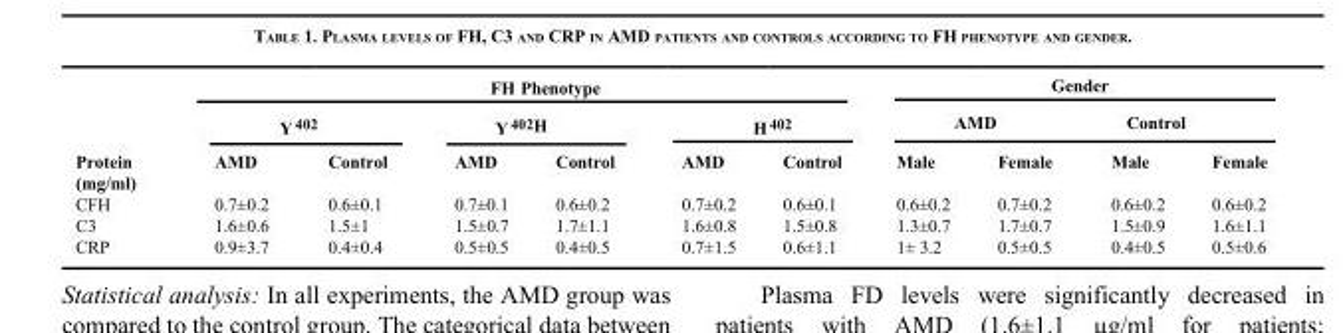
<table><thead><tr><td rowspan="3">Protein (mg/ml)</td><td colspan="6">FH Phenotype</td><td colspan="4">Gender</td></tr><tr><td colspan="2">Y <sup>402</sup></td><td colspan="2">Y <sup>402</sup>H</td><td colspan="2">H <sup>402</sup></td><td colspan="2">AMD</td><td colspan="2">Control</td></tr><tr><td>AMD</td><td>Control</td><td>AMD</td><td>Control</td><td>AMD</td><td>Control</td><td>Male</td><td>Female</td><td>Male</td><td>Female</td></tr></thead><tbody><tr><td>CFH</td><td>0.7±0.2</td><td>0.6±0.1</td><td>0.7±0.1</td><td>0.6±0.2</td><td>0.7±0.2</td><td>0.6±0.1</td><td>0.6±0.2</td><td>0.7±0.2</td><td>0.6±0.2</td><td>0.6±0.2</td></tr><tr><td>C3</td><td>1.6±0.6</td><td>1.5±1</td><td>1.5±0.7</td><td>1.7±1.1</td><td>1.6±0.8</td><td>1.5±0.8</td><td>1.3±0.7</td><td>1.7±0.7</td><td>1.5±0.9</td><td>1.6±1.1</td></tr><tr><td>CRP</td><td>0.9±3.7</td><td>0.4±0.4</td><td>0.5±0.5</td><td>0.4±0.5</td><td>0.7±1.5</td><td>0.6±1.1</td><td>1± 3.2</td><td>0.5±0.5</td><td>0.4±0.5</td><td>0.5±0.6</td></tr></tbody></table>